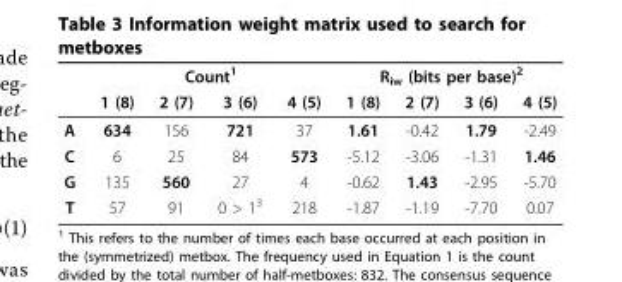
<table><thead><tr><td rowspan="2"></td><td colspan="4">Count<sup>1</sup></td><td colspan="4">R<sub>iw</sub> (bits per base)<sup>2</sup></td></tr><tr><td>1 (8)</td><td>2 (7)</td><td>3 (6)</td><td>4 (5)</td><td>1 (8)</td><td>2 (7)</td><td>3 (6)</td><td>4 (5)</td></tr></thead><tbody><tr><td>A</td><td>634</td><td>156</td><td>721</td><td>37</td><td>1.61</td><td>-0.42</td><td>1.79</td><td>-2.49</td></tr><tr><td>C</td><td>6</td><td>25</td><td>84</td><td>573</td><td>-5.12</td><td>-3.06</td><td>-1.31</td><td>1.46</td></tr><tr><td>G</td><td>135</td><td>560</td><td>27</td><td>4</td><td>-0.62</td><td>1.43</td><td>-2.95</td><td>-5.70</td></tr><tr><td>T</td><td>57</td><td>91</td><td>0 &gt; 1<sup>3</sup></td><td>218</td><td>-1.87</td><td>-1.19</td><td>-7.70</td><td>0.07</td></tr></tbody></table>